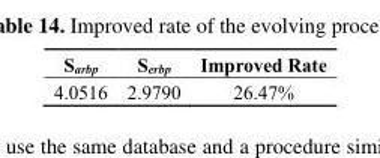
<table><thead><tr><td>S<sub>arbp</sub></td><td>S<sub>erbp</sub></td><td>Improved Rate</td></tr></thead><tbody><tr><td>4.0516</td><td>2.9790</td><td>26.47%</td></tr></tbody></table>